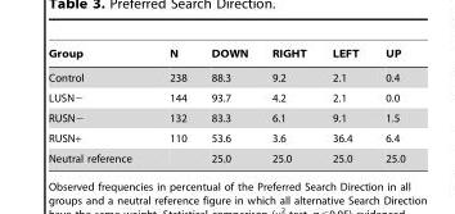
<table><thead><tr><td>Group</td><td>N</td><td>DOWN</td><td>RIGHT</td><td>LEFT</td><td>UP</td></tr></thead><tbody><tr><td>Control</td><td>238</td><td>88.3</td><td>9.2</td><td>2.1</td><td>0.4</td></tr><tr><td>LUSN−</td><td>144</td><td>93.7</td><td>4.2</td><td>2.1</td><td>0.0</td></tr><tr><td>RUSN−</td><td>132</td><td>83.3</td><td>6.1</td><td>9.1</td><td>1.5</td></tr><tr><td>RUSN+</td><td>110</td><td>53.6</td><td>3.6</td><td>36.4</td><td>6.4</td></tr><tr><td>Neutral reference</td><td></td><td>25.0</td><td>25.0</td><td>25.0</td><td>25.0</td></tr></tbody></table>